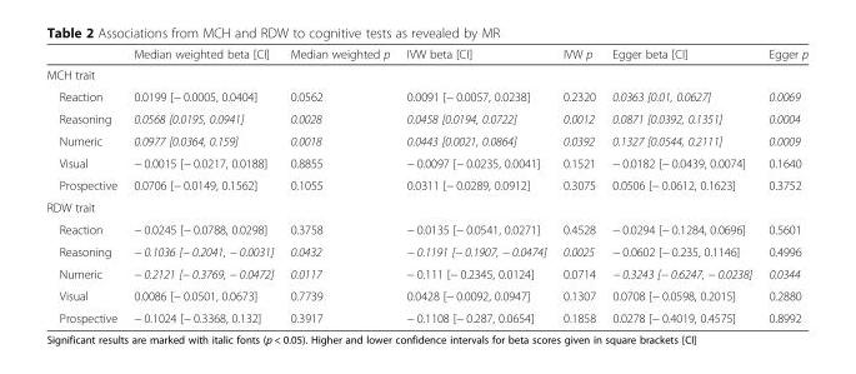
<table><thead><tr><td></td><td>Median weighted beta [CI]</td><td>Median weighted p</td><td>IVW beta [CI]</td><td>IVW p</td><td>Egger beta [CI]</td><td>Egger p</td></tr></thead><tbody><tr><td colspan="7">MCH trait</td></tr><tr><td>Reaction</td><td>0.0199 [− 0.0005, 0.0404]</td><td>0.0562</td><td>0.0091 [− 0.0057, 0.0238]</td><td>0.2320</td><td>0.0363 [0.01, 0.0627]</td><td>0.0069</td></tr><tr><td>Reasoning</td><td>0.0568 [0.0195, 0.0941]</td><td>0.0028</td><td>0.0458 [0.0194, 0.0722]</td><td>0.0012</td><td>0.0871 [0.0392, 0.1351]</td><td>0.0004</td></tr><tr><td>Numeric</td><td>0.0977 [0.0364, 0.159]</td><td>0.0018</td><td>0.0443 [0.0021, 0.0864]</td><td>0.0392</td><td>0.1327 [0.0544, 0.2111]</td><td>0.0009</td></tr><tr><td>Visual</td><td>− 0.0015 [− 0.0217, 0.0188]</td><td>0.8855</td><td>− 0.0097 [− 0.0235, 0.0041]</td><td>0.1521</td><td>− 0.0182 [− 0.0439, 0.0074]</td><td>0.1640</td></tr><tr><td>Prospective</td><td>0.0706 [− 0.0149, 0.1562]</td><td>0.1055</td><td>0.0311 [− 0.0289, 0.0912]</td><td>0.3075</td><td>0.0506 [− 0.0612, 0.1623]</td><td>0.3752</td></tr><tr><td colspan="7">RDW trait</td></tr><tr><td>Reaction</td><td>− 0.0245 [− 0.0788, 0.0298]</td><td>0.3758</td><td>− 0.0135 [− 0.0541, 0.0271]</td><td>0.4528</td><td>− 0.0294 [− 0.1284, 0.0696]</td><td>0.5601</td></tr><tr><td>Reasoning</td><td>− 0.1036 [− 0.2041, − 0.0031]</td><td>0.0432</td><td>− 0.1191 [− 0.1907, − 0.0474]</td><td>0.0025</td><td>− 0.0602 [− 0.235, 0.1146]</td><td>0.4996</td></tr><tr><td>Numeric</td><td>− 0.2121 [− 0.3769, − 0.0472]</td><td>0.0117</td><td>− 0.111 [− 0.2345, 0.0124]</td><td>0.0714</td><td>− 0.3243 [− 0.6247, − 0.0238]</td><td>0.0344</td></tr><tr><td>Visual</td><td>0.0086 [− 0.0501, 0.0673]</td><td>0.7739</td><td>0.0428 [− 0.0092, 0.0947]</td><td>0.1307</td><td>0.0708 [− 0.0598, 0.2015]</td><td>0.2880</td></tr><tr><td>Prospective</td><td>− 0.1024 [− 0.3368, 0.132]</td><td>0.3917</td><td>− 0.1108 [− 0.287, 0.0654]</td><td>0.1858</td><td>0.0278 [− 0.4019, 0.4575]</td><td>0.8992</td></tr></tbody></table>